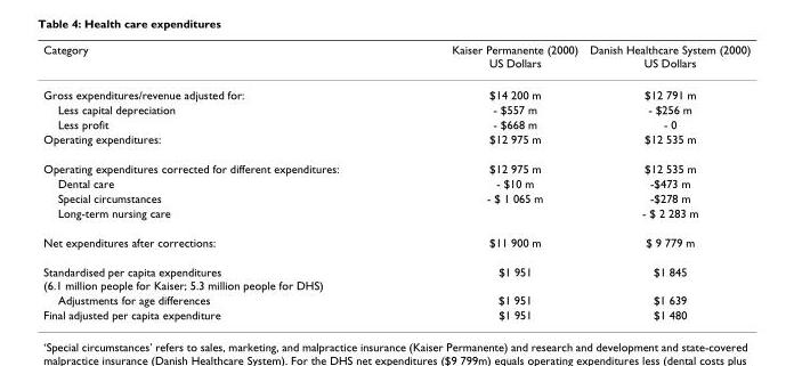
<table><thead><tr><td>Category</td><td>Kaiser Permanente (2000) US Dollars</td><td>Danish Healthcare System (2000) US Dollars</td></tr></thead><tbody><tr><td>Gross expenditures/revenue adjusted for:</td><td>$14 200 m</td><td>$12 791 m</td></tr><tr><td>Less capital depreciation</td><td>- $557 m</td><td>- $256 m</td></tr><tr><td>Less profit</td><td>- $668 m</td><td>- 0</td></tr><tr><td>Operating expenditures:</td><td>$12 975 m</td><td>$12 535 m</td></tr><tr><td>Operating expenditures corrected for different expenditures:</td><td>$12 975 m</td><td>$12 535 m</td></tr><tr><td>Dental care</td><td>- $10 m</td><td>-$473 m</td></tr><tr><td>Special circumstances</td><td>- $ 1 065 m</td><td>-$278 m</td></tr><tr><td>Long-term nursing care</td><td></td><td>- $ 2 283 m</td></tr><tr><td>Net expenditures after corrections:</td><td>$11 900 m</td><td>$ 9 779 m</td></tr><tr><td>Standardised per capita expenditures (6.1 million people for Kaiser; 5.3 million people for DHS)</td><td>$1 951</td><td>$1 845</td></tr><tr><td>Adjustments for age differences</td><td>$1 951</td><td>$1 639</td></tr><tr><td>Final adjusted per capita expenditure</td><td>$1 951</td><td>$1 480</td></tr></tbody></table>